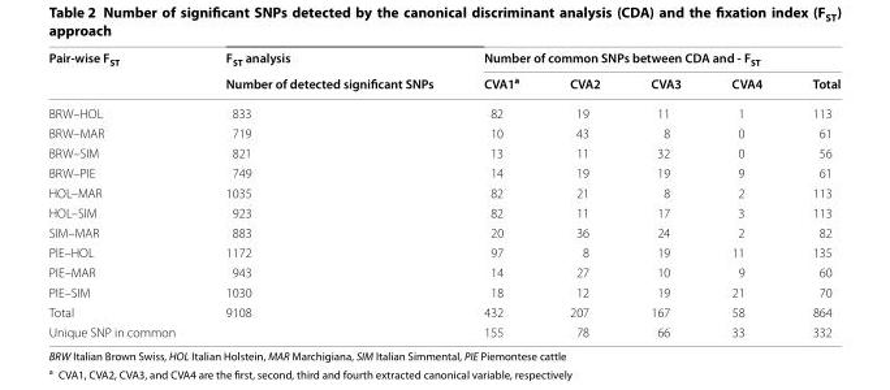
<table><thead><tr><td rowspan="2">Pair-wise F<sub>ST</sub></td><td rowspan="2">F<sub>ST</sub> analysis Number of detected significant SNPs</td><td colspan="5">Number of common SNPs between CDA and - F<sub>ST</sub></td></tr><tr><td>CVA1<sup>a</sup></td><td>CVA2</td><td>CVA3</td><td>CVA4</td><td>Total</td></tr></thead><tbody><tr><td>BRW–HOL</td><td>833</td><td>82</td><td>19</td><td>11</td><td>1</td><td>113</td></tr><tr><td>BRW–MAR</td><td>719</td><td>10</td><td>43</td><td>8</td><td>0</td><td>61</td></tr><tr><td>BRW–SIM</td><td>821</td><td>13</td><td>11</td><td>32</td><td>0</td><td>56</td></tr><tr><td>BRW–PIE</td><td>749</td><td>14</td><td>19</td><td>19</td><td>9</td><td>61</td></tr><tr><td>HOL–MAR</td><td>1035</td><td>82</td><td>21</td><td>8</td><td>2</td><td>113</td></tr><tr><td>HOL–SIM</td><td>923</td><td>82</td><td>11</td><td>17</td><td>3</td><td>113</td></tr><tr><td>SIM–MAR</td><td>883</td><td>20</td><td>36</td><td>24</td><td>2</td><td>82</td></tr><tr><td>PIE–HOL</td><td>1172</td><td>97</td><td>8</td><td>19</td><td>11</td><td>135</td></tr><tr><td>PIE–MAR</td><td>943</td><td>14</td><td>27</td><td>10</td><td>9</td><td>60</td></tr><tr><td>PIE–SIM</td><td>1030</td><td>18</td><td>12</td><td>19</td><td>21</td><td>70</td></tr><tr><td>Total</td><td>9108</td><td>432</td><td>207</td><td>167</td><td>58</td><td>864</td></tr><tr><td>Unique SNP in common</td><td></td><td>155</td><td>78</td><td>66</td><td>33</td><td>332</td></tr></tbody></table>